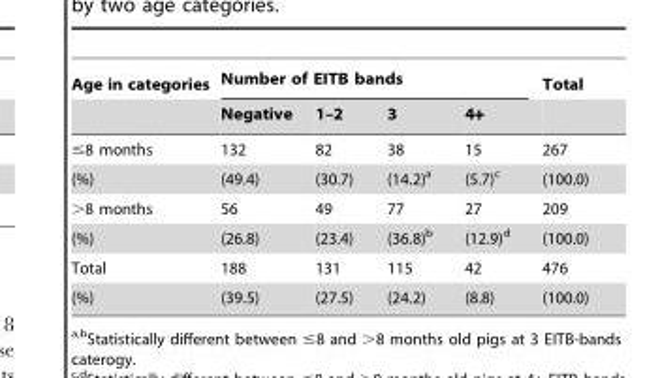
<table><thead><tr><td rowspan="2">Age in categories</td><td colspan="4">Number of EITB bands</td><td rowspan="2">Total</td></tr><tr><td>Negative</td><td>1–2</td><td>3</td><td>4+</td></tr></thead><tbody><tr><td>≤8 months</td><td>132</td><td>82</td><td>38</td><td>15</td><td>267</td></tr><tr><td>(%)</td><td>(49.4)</td><td>(30.7)</td><td>(14.2)<sup>a</sup></td><td>(5.7)<sup>c</sup></td><td>(100.0)</td></tr><tr><td>&gt;8 months</td><td>56</td><td>49</td><td>77</td><td>27</td><td>209</td></tr><tr><td>(%)</td><td>(26.8)</td><td>(23.4)</td><td>(36.8)<sup>b</sup></td><td>(12.9)<sup>d</sup></td><td>(100.0)</td></tr><tr><td>Total</td><td>188</td><td>131</td><td>115</td><td>42</td><td>476</td></tr><tr><td>(%)</td><td>(39.5)</td><td>(27.5)</td><td>(24.2)</td><td>(8.8)</td><td>(100.0)</td></tr></tbody></table>